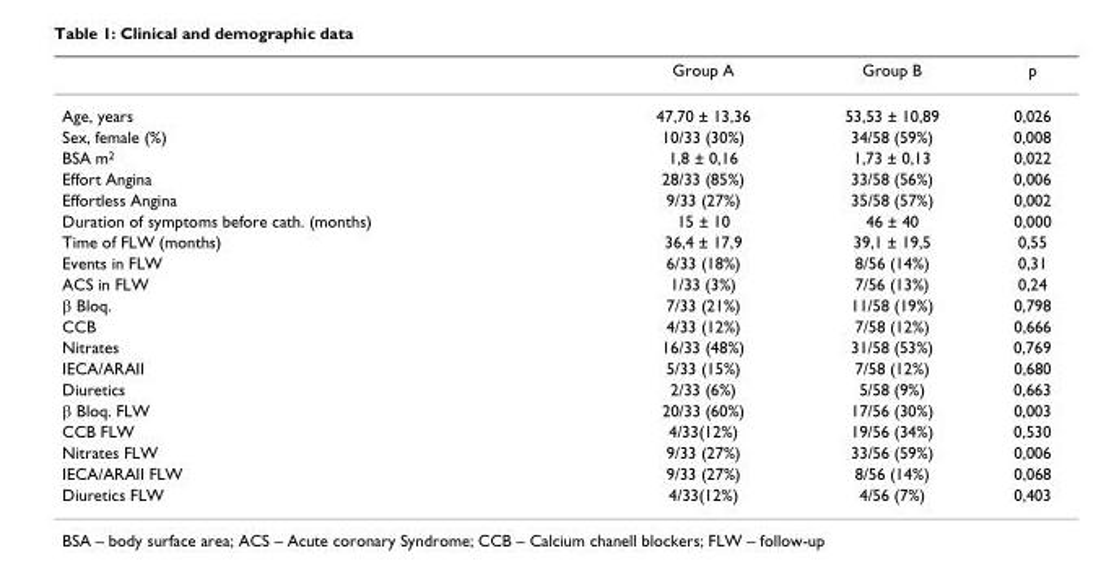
<table><thead><tr><td></td><td>Group A</td><td>Group B</td><td>p</td></tr></thead><tbody><tr><td>Age, years</td><td>47,70 ± 13,36</td><td>53,53 ± 10,89</td><td>0,026</td></tr><tr><td>Sex, female (%)</td><td>10/33 (30%)</td><td>34/58 (59%)</td><td>0,008</td></tr><tr><td>BSA m<sup>2</sup></td><td>1,8 ± 0,16</td><td>1,73 ± 0,13</td><td>0,022</td></tr><tr><td>Effort Angina</td><td>28/33 (85%)</td><td>33/58 (56%)</td><td>0,006</td></tr><tr><td>Effortless Angina</td><td>9/33 (27%)</td><td>35/58 (57%)</td><td>0,002</td></tr><tr><td>Duration of symptoms before cath. (months)</td><td>15 ± 10</td><td>46 ± 40</td><td>0,000</td></tr><tr><td>Time of FLW (months)</td><td>36,4 ± 17,9</td><td>39,1 ± 19,5</td><td>0,55</td></tr><tr><td>Events in FLW</td><td>6/33 (18%)</td><td>8/56 (14%)</td><td>0,31</td></tr><tr><td>ACS in FLW</td><td>1/33 (3%)</td><td>7/56 (13%)</td><td>0,24</td></tr><tr><td>β Bloq.</td><td>7/33 (21%)</td><td>11/58 (19%)</td><td>0,798</td></tr><tr><td>CCB</td><td>4/33 (12%)</td><td>7/58 (12%)</td><td>0,666</td></tr><tr><td>Nitrates</td><td>16/33 (48%)</td><td>31/58 (53%)</td><td>0,769</td></tr><tr><td>IECA/ARAII</td><td>5/33 (15%)</td><td>7/58 (12%)</td><td>0,680</td></tr><tr><td>Diuretics</td><td>2/33 (6%)</td><td>5/58 (9%)</td><td>0,663</td></tr><tr><td>β Bloq. FLW</td><td>20/33 (60%)</td><td>17/56 (30%)</td><td>0,003</td></tr><tr><td>CCB FLW</td><td>4/33(12%)</td><td>19/56 (34%)</td><td>0,530</td></tr><tr><td>Nitrates FLW</td><td>9/33 (27%)</td><td>33/56 (59%)</td><td>0,006</td></tr><tr><td>IECA/ARAII FLW</td><td>9/33 (27%)</td><td>8/56 (14%)</td><td>0,068</td></tr><tr><td>Diuretics FLW</td><td>4/33(12%)</td><td>4/56 (7%)</td><td>0,403</td></tr></tbody></table>